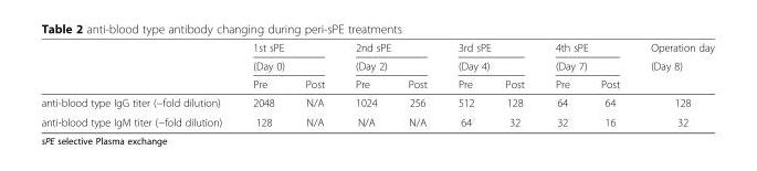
<table><thead><tr><td rowspan="3"></td><td rowspan="2" colspan="2">1st sPE (Day 0)</td><td rowspan="2" colspan="2">2nd sPE (Day 2)</td><td rowspan="2" colspan="2">3rd sPE (Day 4)</td><td rowspan="2" colspan="2">4th sPE (Day 7)</td><td rowspan="3">Operation day (Day 8)</td></tr><tr></tr><tr><td>Pre</td><td>Post</td><td>Pre</td><td>Post</td><td>Pre</td><td>Post</td><td>Pre</td><td>Post</td></tr></thead><tbody><tr><td>anti-blood type IgG titer (−fold dilution)</td><td>2048</td><td>N/A</td><td>1024</td><td>256</td><td>512</td><td>128</td><td>64</td><td>64</td><td>128</td></tr><tr><td>anti-blood type IgM titer (−fold dilution)</td><td>128</td><td>N/A</td><td>N/A</td><td>N/A</td><td>64</td><td>32</td><td>32</td><td>16</td><td>32</td></tr></tbody></table>